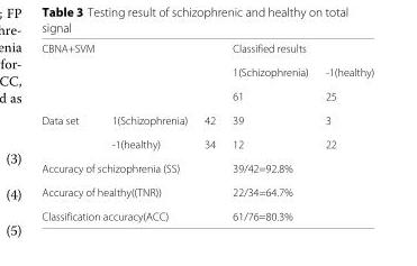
<table><tbody><tr><td rowspan="3">CBNA+SVM</td><td></td><td></td><td colspan="2">Classified results</td></tr><tr><td></td><td></td><td>1(Schizophrenia)</td><td>-1(healthy)</td></tr><tr><td></td><td></td><td>61</td><td>25</td></tr><tr><td rowspan="2">Data set</td><td>1(Schizophrenia)</td><td>42</td><td>39</td><td>3</td></tr><tr><td>-1(healthy)</td><td>34</td><td>12</td><td>22</td></tr><tr><td colspan="3">Accuracy of schizophrenia (SS)</td><td colspan="2">39/42=92.8%</td></tr><tr><td colspan="3">Accuracy of healthy((TNR))</td><td colspan="2">22/34=64.7%</td></tr><tr><td colspan="3">Classification accuracy(ACC)</td><td colspan="2">61/76=80.3%</td></tr></tbody></table>